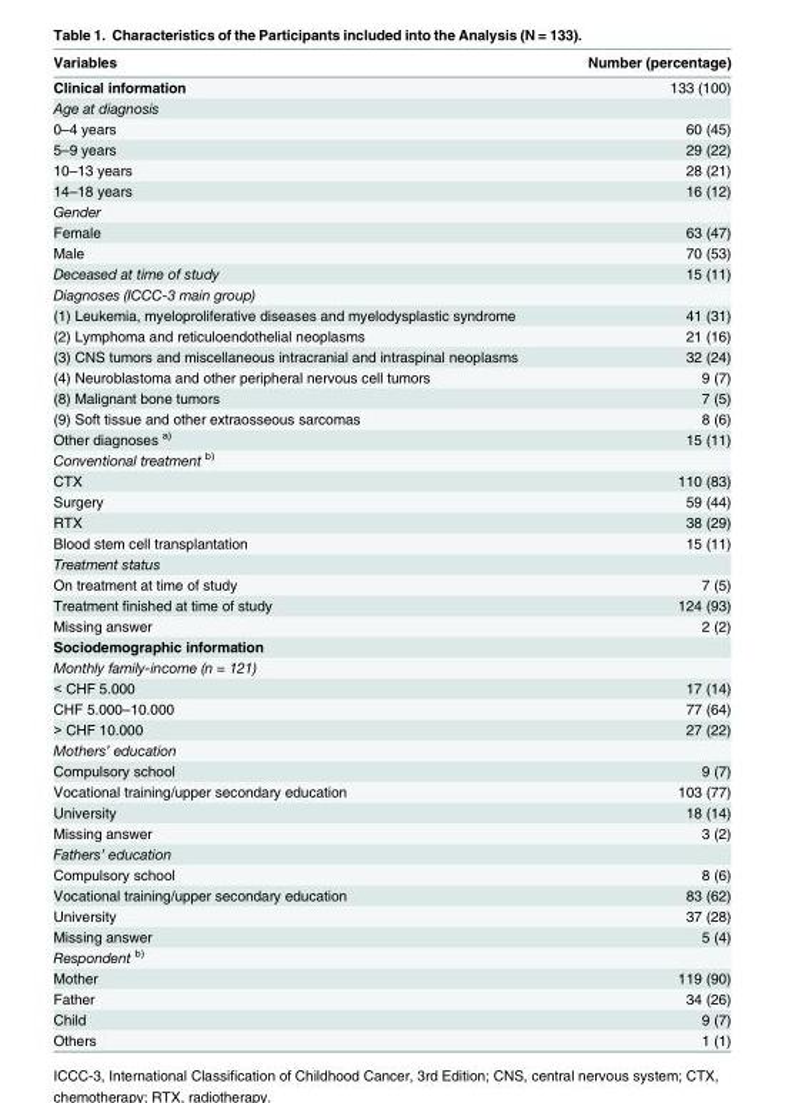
<table><thead><tr><td>Variables</td><td>Number (percentage)</td></tr></thead><tbody><tr><td>Clinical information</td><td>133 (100)</td></tr><tr><td colspan="2">Age at diagnosis</td></tr><tr><td>0–4 years</td><td>60 (45)</td></tr><tr><td>5–9 years</td><td>29 (22)</td></tr><tr><td>10–13 years</td><td>28 (21)</td></tr><tr><td>14–18 years</td><td>16 (12)</td></tr><tr><td colspan="2">Gender</td></tr><tr><td>Female</td><td>63 (47)</td></tr><tr><td>Male</td><td>70 (53)</td></tr><tr><td>Deceased at time of study</td><td>15 (11)</td></tr><tr><td colspan="2">Diagnoses (ICCC-3 main group)</td></tr><tr><td>(1) Leukemia, myeloproliferative diseases and myelodysplastic syndrome</td><td>41 (31)</td></tr><tr><td>(2) Lymphoma and reticuloendothelial neoplasms</td><td>21 (16)</td></tr><tr><td>(3) CNS tumors and miscellaneous intracranial and intraspinal neoplasms</td><td>32 (24)</td></tr><tr><td>(4) Neuroblastoma and other peripheral nervous cell tumors</td><td>9 (7)</td></tr><tr><td>(8) Malignant bone tumors</td><td>7 (5)</td></tr><tr><td>(9) Soft tissue and other extraosseous sarcomas</td><td>8 (6)</td></tr><tr><td>Other diagnoses <sup>a)</sup></td><td>15 (11)</td></tr><tr><td colspan="2">Conventional treatment <sup>b)</sup></td></tr><tr><td>CTX</td><td>110 (83)</td></tr><tr><td>Surgery</td><td>59 (44)</td></tr><tr><td>RTX</td><td>38 (29)</td></tr><tr><td>Blood stem cell transplantation</td><td>15 (11)</td></tr><tr><td colspan="2">Treatment status</td></tr><tr><td>On treatment at time of study</td><td>7 (5)</td></tr><tr><td>Treatment finished at time of study</td><td>124 (93)</td></tr><tr><td>Missing answer</td><td>2 (2)</td></tr><tr><td colspan="2">Sociodemographic information</td></tr><tr><td colspan="2">Monthly family-income (n = 121)</td></tr><tr><td>&lt; CHF 5.000</td><td>17 (14)</td></tr><tr><td>CHF 5.000–10.000</td><td>77 (64)</td></tr><tr><td>&gt; CHF 10.000</td><td>27 (22)</td></tr><tr><td colspan="2">Mothers’ education</td></tr><tr><td>Compulsory school</td><td>9 (7)</td></tr><tr><td>Vocational training/upper secondary education</td><td>103 (77)</td></tr><tr><td>University</td><td>18 (14)</td></tr><tr><td>Missing answer</td><td>3 (2)</td></tr><tr><td colspan="2">Fathers’ education</td></tr><tr><td>Compulsory school</td><td>8 (6)</td></tr><tr><td>Vocational training/upper secondary education</td><td>83 (62)</td></tr><tr><td>University</td><td>37 (28)</td></tr><tr><td>Missing answer</td><td>5 (4)</td></tr><tr><td colspan="2">Respondent <sup>b)</sup></td></tr><tr><td>Mother</td><td>119 (90)</td></tr><tr><td>Father</td><td>34 (26)</td></tr><tr><td>Child</td><td>9 (7)</td></tr><tr><td>Others</td><td>1 (1)</td></tr></tbody></table>